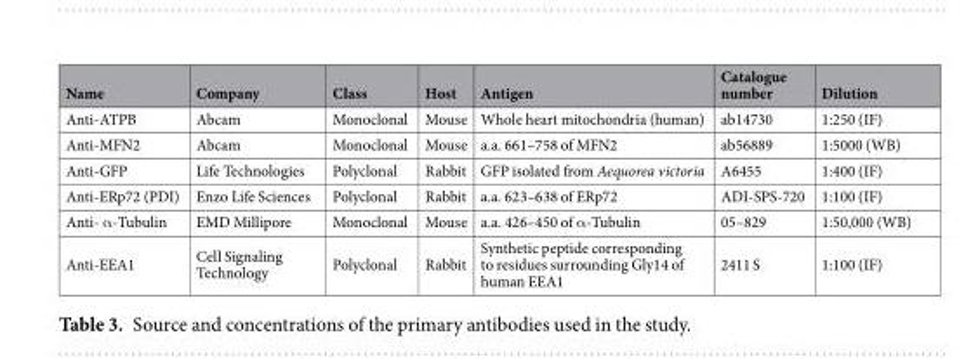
<table><thead><tr><td>Name</td><td>Company</td><td>Class</td><td>Host</td><td>Antigen</td><td>Catalogue number</td><td>Dilution</td></tr></thead><tbody><tr><td>Anti-ATPB</td><td>Abcam</td><td>Monoclonal</td><td>Mouse</td><td>Whole heart mitochondria (human)</td><td>ab14730</td><td>1:250 (IF)</td></tr><tr><td>Anti-MFN2</td><td>Abcam</td><td>Monoclonal</td><td>Mouse</td><td>a.a. 661–758 of MFN2</td><td>ab56889</td><td>1:5000 (WB)</td></tr><tr><td>Anti-GFP</td><td>Life Technologies</td><td>Polyclonal</td><td>Rabbit</td><td>GFP isolated from Aequorea victoria</td><td>A6455</td><td>1:400 (IF)</td></tr><tr><td>Anti-ERp72 (PDI)</td><td>Enzo Life Sciences</td><td>Polyclonal</td><td>Rabbit</td><td>a.a. 623–638 of ERp72</td><td>ADI-SPS-720</td><td>1:100 (IF)</td></tr><tr><td>Anti- α-Tubulin</td><td>EMD Millipore</td><td>Monoclonal</td><td>Mouse</td><td>a.a. 426–450 of α-Tubulin</td><td>05–829</td><td>1:50,000 (WB)</td></tr><tr><td>Anti-EEA1</td><td>Cell Signaling Technology</td><td>Polyclonal</td><td>Rabbit</td><td>Synthetic peptide corresponding to residues surrounding Gly14 of human EEA1</td><td>2411 S</td><td>1:100 (IF)</td></tr></tbody></table>